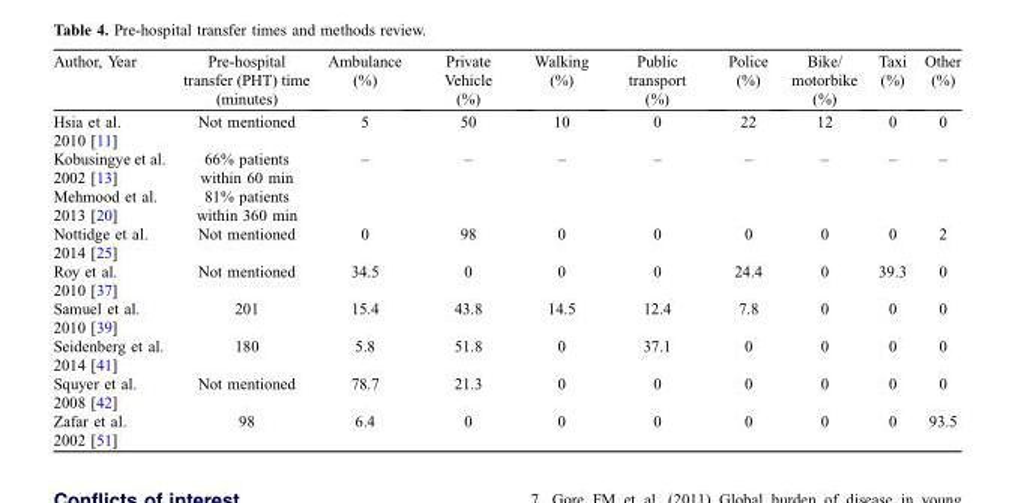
<table><thead><tr><td>Author, Year</td><td>Pre-hospital transfer (PHT) time (minutes)</td><td>Ambulance (%)</td><td>Private Vehicle (%)</td><td>Walking (%)</td><td>Public transport (%)</td><td>Police (%)</td><td>Bike/ motorbike (%)</td><td>Taxi (%)</td><td>Other (%)</td></tr></thead><tbody><tr><td>Hsia et al. 2010 [11]</td><td>Not mentioned</td><td>5</td><td>50</td><td>10</td><td>0</td><td>22</td><td>12</td><td>0</td><td>0</td></tr><tr><td>Kobusingye et al. 2002 [13]</td><td>66% patients within 60 min</td><td>–</td><td>–</td><td>–</td><td>–</td><td>–</td><td>–</td><td>–</td><td>–</td></tr><tr><td>Mehmood et al. 2013 [20]</td><td>81% patients within 360 min</td><td></td><td></td><td></td><td></td><td></td><td></td><td></td><td></td></tr><tr><td>Nottidge et al. 2014 [25]</td><td>Not mentioned</td><td>0</td><td>98</td><td>0</td><td>0</td><td>0</td><td>0</td><td>0</td><td>2</td></tr><tr><td>Roy et al. 2010 [37]</td><td>Not mentioned</td><td>34.5</td><td>0</td><td>0</td><td>0</td><td>24.4</td><td>0</td><td>39.3</td><td>0</td></tr><tr><td>Samuel et al. 2010 [39]</td><td>201</td><td>15.4</td><td>43.8</td><td>14.5</td><td>12.4</td><td>7.8</td><td>0</td><td>0</td><td>0</td></tr><tr><td>Seidenberg et al. 2014 [41]</td><td>180</td><td>5.8</td><td>51.8</td><td>0</td><td>37.1</td><td>0</td><td>0</td><td>0</td><td>0</td></tr><tr><td>Squyer et al. 2008 [42]</td><td>Not mentioned</td><td>78.7</td><td>21.3</td><td>0</td><td>0</td><td>0</td><td>0</td><td>0</td><td>0</td></tr><tr><td>Zafar et al. 2002 [51]</td><td>98</td><td>6.4</td><td>0</td><td>0</td><td>0</td><td>0</td><td>0</td><td>0</td><td>93.5</td></tr></tbody></table>